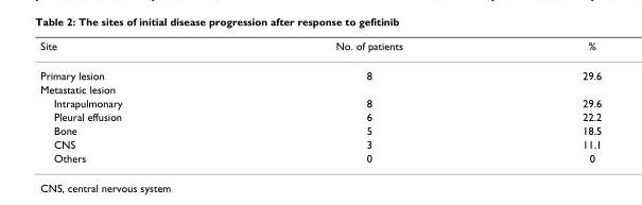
<table><thead><tr><td>Site</td><td>No. of patients</td><td>%</td></tr></thead><tbody><tr><td>Primary lesion</td><td>8</td><td>29.6</td></tr><tr><td colspan="3">Metastatic lesion</td></tr><tr><td>Intrapulmonary</td><td>8</td><td>29.6</td></tr><tr><td>Pleural effusion</td><td>6</td><td>22.2</td></tr><tr><td>Bone</td><td>5</td><td>18.5</td></tr><tr><td>CNS</td><td>3</td><td>11.1</td></tr><tr><td>Others</td><td>0</td><td>0</td></tr></tbody></table>